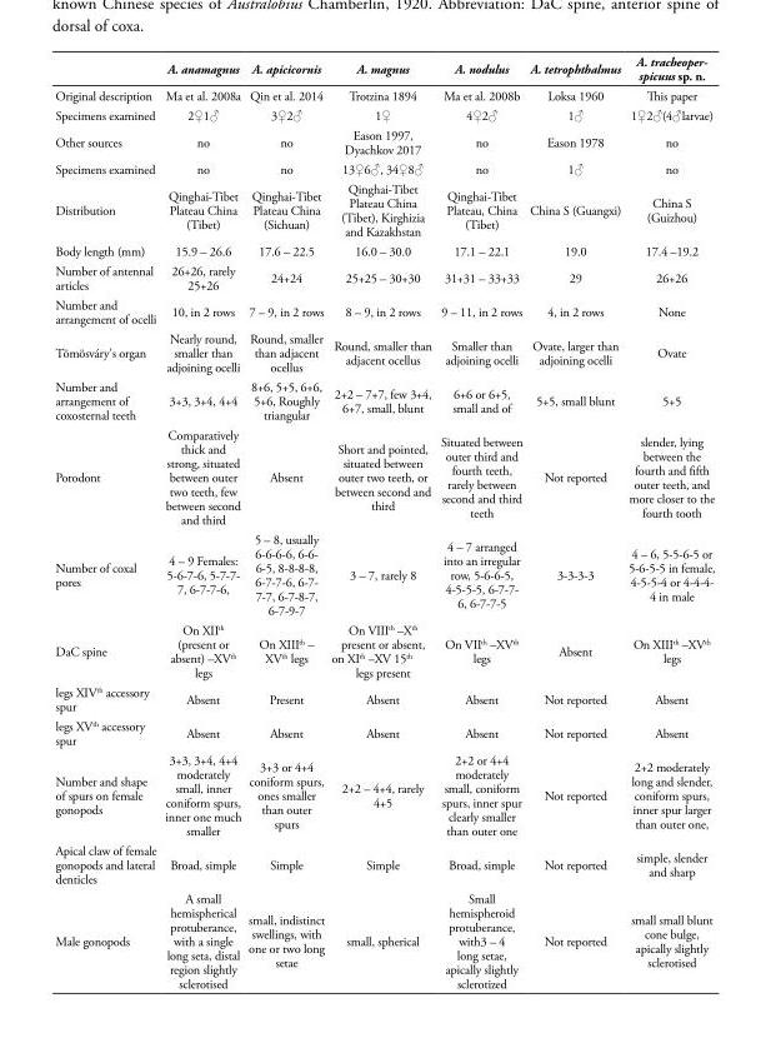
<table><thead><tr><td></td><td>A. anamagnus</td><td>A. apicicornis</td><td>A. magnus</td><td>A. nodulus</td><td>A. tetrophthalmus</td><td>A. tracheoper- spicuus sp. n.</td></tr></thead><tbody><tr><td>Original description</td><td>Ma et al. 2008a</td><td>Qin et al. 2014</td><td>Trotzina 1894</td><td>Ma et al. 2008b</td><td>Loksa 1960</td><td>This paper</td></tr><tr><td>Specimens examined</td><td>2♀1♂</td><td>3♀2♂</td><td>1♀</td><td>4♀2♂</td><td>1♂</td><td>1♀2♂(4♂larvae)</td></tr><tr><td>Other sources</td><td>no</td><td>no</td><td>Eason 1997, Dyachkov 2017</td><td>no</td><td>Eason 1978</td><td>no</td></tr><tr><td>Specimens examined</td><td>no</td><td>no</td><td>13♀6♂, 34♀8♂</td><td>no</td><td>1♂</td><td>no</td></tr><tr><td>Distribution</td><td>Qinghai-Tibet Plateau China (Tibet)</td><td>Qinghai-Tibet Plateau China (Sichuan)</td><td>Qinghai-Tibet Plateau China (Tibet), Kirghizia and Kazakhstan</td><td>Qinghai-Tibet Plateau, China (Tibet)</td><td>China S (Guangxi)</td><td>China S (Guizhou)</td></tr><tr><td>Body length (mm)</td><td>15.9 – 26.6</td><td>17.6 – 22.5</td><td>16.0 – 30.0</td><td>17.1 – 22.1</td><td>19.0</td><td>17.4 –19.2</td></tr><tr><td>Number of antennal articles</td><td>26+26, rarely 25+26</td><td>24+24</td><td>25+25 – 30+30</td><td>31+31 – 33+33</td><td>29</td><td>26+26</td></tr><tr><td>Number and arrangement of ocelli</td><td>10, in 2 rows</td><td>7 – 9, in 2 rows</td><td>8 – 9, in 2 rows</td><td>9 – 11, in 2 rows</td><td>4, in 2 rows</td><td>None</td></tr><tr><td>Tömösváry&#x27;s organ</td><td>Nearly round, smaller than adjoining ocelli</td><td>Round, smaller than adjacent ocellus</td><td>Round, smaller than adjacent ocellus</td><td>Smaller than adjoining ocelli</td><td>Ovate, larger than adjoining ocelli</td><td>Ovate</td></tr><tr><td>Number and arrangement of coxosternal teeth</td><td>3+3, 3+4, 4+4</td><td>8+6, 5+5, 6+6, 5+6, Roughly triangular</td><td>2+2 – 7+7, few 3+4, 6+7, small, blunt</td><td>6+6 or 6+5, small and of</td><td>5+5, small blunt</td><td>5+5</td></tr><tr><td>Porodont</td><td>Comparatively thick and strong, situated between outer two teeth, few between second and third</td><td>Absent</td><td>Short and pointed, situated between outer two teeth, or between second and third</td><td>Situated between outer third and fourth teeth, rarely between second and third teeth</td><td>Not reported</td><td>slender, lying between the fourth and fifth outer teeth, and more closer to the fourth tooth</td></tr><tr><td>Number of coxal pores</td><td>4 – 9 Females: 5-6-7-6, 5-7-7- 7, 6-7-7-6,</td><td>5 – 8, usually 6-6-6-6, 6-6- 6-5, 8-8-8-8, 6-7-7-6, 6-7- 7-7, 6-7-8-7, 6-7-9-7</td><td>3 – 7, rarely 8</td><td>4 – 7 arranged into an irregular row, 5-6-6-5, 4-5-5-5, 6-7-7- 6, 6-7-7-5</td><td>3-3-3-3</td><td>4 – 6, 5-5-6-5 or 5-6-5-5 in female, 4-5-5-4 or 4-4-4- 4 in male</td></tr><tr><td>DaC spine</td><td>On XII<sup>th</sup> (present or absent) –XV<sup>th</sup> legs</td><td>On XIII<sup>th</sup> – XV<sup>th</sup> legs</td><td>On VIII<sup>th</sup> –X<sup>th</sup> present or absent, on XI<sup>th</sup> –XV 15<sup>th</sup> legs present</td><td>On VII<sup>th</sup> –XV<sup>th</sup> legs</td><td>Absent</td><td>On XIII<sup>th</sup> –XV<sup>th</sup> legs</td></tr><tr><td>legs XIV<sup>th</sup> accessory spur</td><td>Absent</td><td>Present</td><td>Absent</td><td>Absent</td><td>Not reported</td><td>Absent</td></tr><tr><td>legs XV<sup>th</sup> accessory spur</td><td>Absent</td><td>Absent</td><td>Absent</td><td>Absent</td><td>Not reported</td><td>Absent</td></tr><tr><td>Number and shape of spurs on female gonopods</td><td>3+3, 3+4, 4+4 moderately small, inner coniform spurs, inner one much smaller</td><td>3+3 or 4+4 coniform spurs, ones smaller than outer spurs</td><td>2+2 – 4+4, rarely 4+5</td><td>2+2 or 4+4 moderately small, coniform spurs, inner spur clearly smaller than outer one</td><td>Not reported</td><td>2+2 moderately long and slender, coniform spurs, inner spur larger than outer one,</td></tr><tr><td>Apical claw of female gonopods and lateral denticles</td><td>Broad, simple</td><td>Simple</td><td>Simple</td><td>Broad, simple</td><td>Not reported</td><td>simple, slender and sharp</td></tr><tr><td>Male gonopods</td><td>A small hemispherical protuberance, with a single long seta, distal region slightly sclerotised</td><td>small, indistinct swellings, with one or two long setae</td><td>small, spherical</td><td>Small hemispheroid protuberance, with3 – 4 long setae, apically slightly sclerotized</td><td>Not reported</td><td>small small blunt cone bulge, apically slightly sclerotised</td></tr></tbody></table>